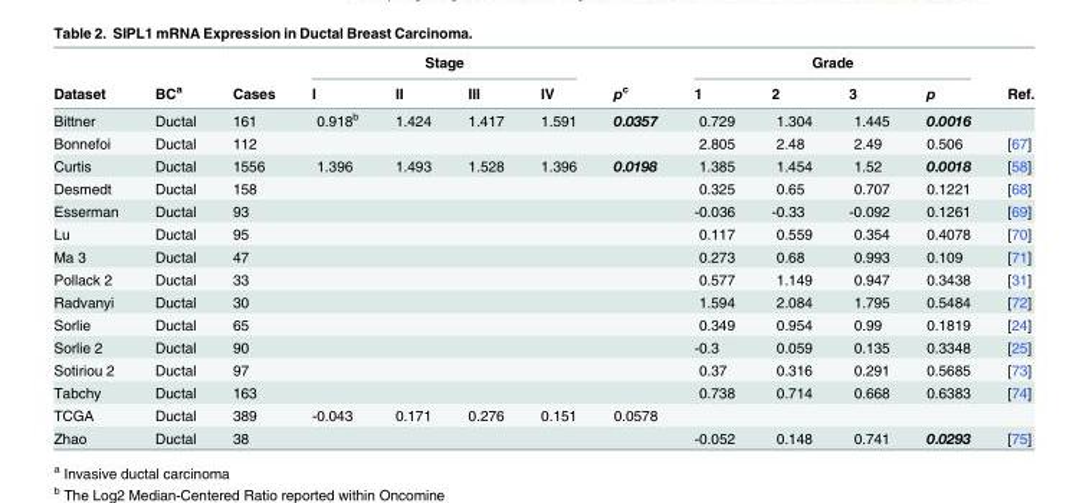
<table><thead><tr><td rowspan="2">Dataset</td><td rowspan="2">BC<sup>a</sup></td><td rowspan="2">Cases</td><td colspan="4">Stage</td><td rowspan="2">p<sup>c</sup></td><td colspan="4">Grade</td><td rowspan="2">Ref.</td></tr><tr><td>I</td><td>II</td><td>III</td><td>IV</td><td>1</td><td>2</td><td>3</td><td>p</td></tr></thead><tbody><tr><td>Bittner</td><td>Ductal</td><td>161</td><td>0.918<sup>b</sup></td><td>1.424</td><td>1.417</td><td>1.591</td><td>0.0357</td><td>0.729</td><td>1.304</td><td>1.445</td><td>0.0016</td><td></td></tr><tr><td>Bonnefoi</td><td>Ductal</td><td>112</td><td></td><td></td><td></td><td></td><td></td><td>2.805</td><td>2.48</td><td>2.49</td><td>0.506</td><td>[67]</td></tr><tr><td>Curtis</td><td>Ductal</td><td>1556</td><td>1.396</td><td>1.493</td><td>1.528</td><td>1.396</td><td>0.0198</td><td>1.385</td><td>1.454</td><td>1.52</td><td>0.0018</td><td>[58]</td></tr><tr><td>Desmedt</td><td>Ductal</td><td>158</td><td></td><td></td><td></td><td></td><td></td><td>0.325</td><td>0.65</td><td>0.707</td><td>0.1221</td><td>[68]</td></tr><tr><td>Esserman</td><td>Ductal</td><td>93</td><td></td><td></td><td></td><td></td><td></td><td>-0.036</td><td>-0.33</td><td>-0.092</td><td>0.1261</td><td>[69]</td></tr><tr><td>Lu</td><td>Ductal</td><td>95</td><td></td><td></td><td></td><td></td><td></td><td>0.117</td><td>0.559</td><td>0.354</td><td>0.4078</td><td>[70]</td></tr><tr><td>Ma 3</td><td>Ductal</td><td>47</td><td></td><td></td><td></td><td></td><td></td><td>0.273</td><td>0.68</td><td>0.993</td><td>0.109</td><td>[71]</td></tr><tr><td>Pollack 2</td><td>Ductal</td><td>33</td><td></td><td></td><td></td><td></td><td></td><td>0.577</td><td>1.149</td><td>0.947</td><td>0.3438</td><td>[31]</td></tr><tr><td>Radvanyi</td><td>Ductal</td><td>30</td><td></td><td></td><td></td><td></td><td></td><td>1.594</td><td>2.084</td><td>1.795</td><td>0.5484</td><td>[72]</td></tr><tr><td>Sorlie</td><td>Ductal</td><td>65</td><td></td><td></td><td></td><td></td><td></td><td>0.349</td><td>0.954</td><td>0.99</td><td>0.1819</td><td>[24]</td></tr><tr><td>Sorlie 2</td><td>Ductal</td><td>90</td><td></td><td></td><td></td><td></td><td></td><td>-0.3</td><td>0.059</td><td>0.135</td><td>0.3348</td><td>[25]</td></tr><tr><td>Sotiriou 2</td><td>Ductal</td><td>97</td><td></td><td></td><td></td><td></td><td></td><td>0.37</td><td>0.316</td><td>0.291</td><td>0.5685</td><td>[73]</td></tr><tr><td>Tabchy</td><td>Ductal</td><td>163</td><td></td><td></td><td></td><td></td><td></td><td>0.738</td><td>0.714</td><td>0.668</td><td>0.6383</td><td>[74]</td></tr><tr><td>TCGA</td><td>Ductal</td><td>389</td><td>-0.043</td><td>0.171</td><td>0.276</td><td>0.151</td><td>0.0578</td><td></td><td></td><td></td><td></td><td></td></tr><tr><td>Zhao</td><td>Ductal</td><td>38</td><td></td><td></td><td></td><td></td><td></td><td>-0.052</td><td>0.148</td><td>0.741</td><td>0.0293</td><td>[75]</td></tr></tbody></table>